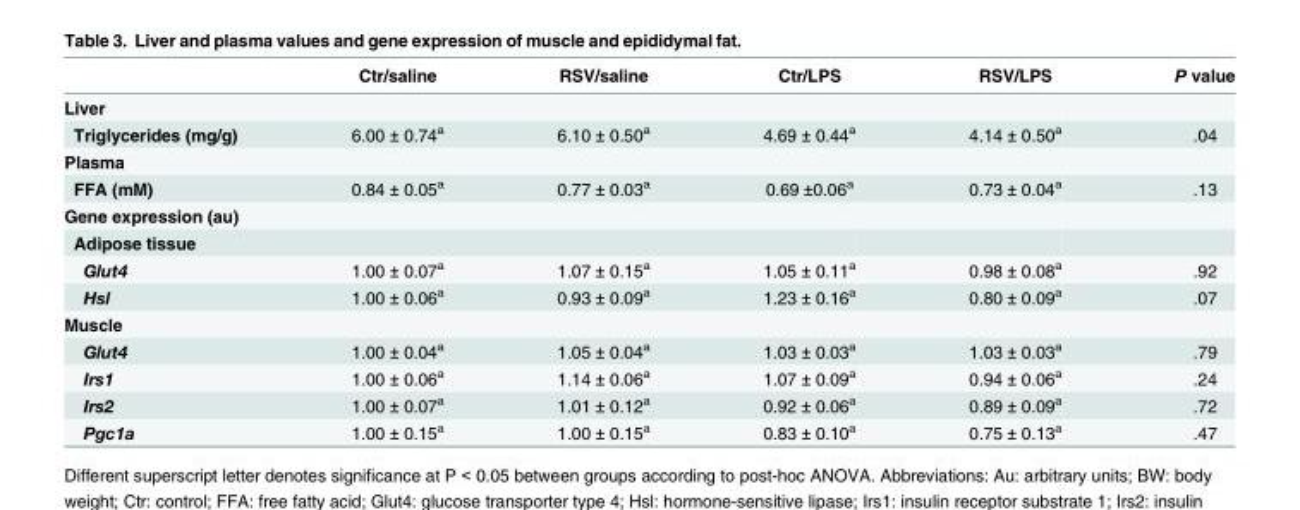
<table><thead><tr><td></td><td>Ctr/saline</td><td>RSV/saline</td><td>Ctr/LPS</td><td>RSV/LPS</td><td>P value</td></tr></thead><tbody><tr><td colspan="6">Liver</td></tr><tr><td>Triglycerides (mg/g)</td><td>6.00 ± 0.74<sup>a</sup></td><td>6.10 ± 0.50<sup>a</sup></td><td>4.69 ± 0.44<sup>a</sup></td><td>4.14 ± 0.50<sup>a</sup></td><td>.04</td></tr><tr><td colspan="6">Plasma</td></tr><tr><td>FFA (mM)</td><td>0.84 ± 0.05<sup>a</sup></td><td>0.77 ± 0.03<sup>a</sup></td><td>0.69 ±0.06<sup>a</sup></td><td>0.73 ± 0.04<sup>a</sup></td><td>.13</td></tr><tr><td colspan="6">Gene expression (au)</td></tr><tr><td colspan="6">Adipose tissue</td></tr><tr><td>Glut4</td><td>1.00 ± 0.07<sup>a</sup></td><td>1.07 ± 0.15<sup>a</sup></td><td>1.05 ± 0.11<sup>a</sup></td><td>0.98 ± 0.08<sup>a</sup></td><td>.92</td></tr><tr><td>Hsl</td><td>1.00 ± 0.06<sup>a</sup></td><td>0.93 ± 0.09<sup>a</sup></td><td>1.23 ± 0.16<sup>a</sup></td><td>0.80 ± 0.09<sup>a</sup></td><td>.07</td></tr><tr><td colspan="6">Muscle</td></tr><tr><td>Glut4</td><td>1.00 ± 0.04<sup>a</sup></td><td>1.05 ± 0.04<sup>a</sup></td><td>1.03 ± 0.03<sup>a</sup></td><td>1.03 ± 0.03<sup>a</sup></td><td>.79</td></tr><tr><td>Irs1</td><td>1.00 ± 0.06<sup>a</sup></td><td>1.14 ± 0.06<sup>a</sup></td><td>1.07 ± 0.09<sup>a</sup></td><td>0.94 ± 0.06<sup>a</sup></td><td>.24</td></tr><tr><td>Irs2</td><td>1.00 ± 0.07<sup>a</sup></td><td>1.01 ± 0.12<sup>a</sup></td><td>0.92 ± 0.06<sup>a</sup></td><td>0.89 ± 0.09<sup>a</sup></td><td>.72</td></tr><tr><td>Pgc1a</td><td>1.00 ± 0.15<sup>a</sup></td><td>1.00 ± 0.15<sup>a</sup></td><td>0.83 ± 0.10<sup>a</sup></td><td>0.75 ± 0.13<sup>a</sup></td><td>.47</td></tr></tbody></table>